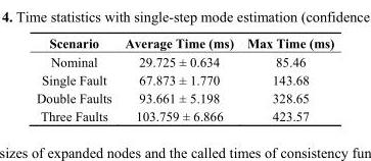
<table><thead><tr><td>Scenario</td><td>Average Time (ms)</td><td>Max Time (ms)</td></tr></thead><tbody><tr><td>Nominal</td><td>29.725 ± 0.634</td><td>85.46</td></tr><tr><td>Single Fault</td><td>67.873 ± 1.770</td><td>143.68</td></tr><tr><td>Double Faults</td><td>93.661 ± 5.198</td><td>328.65</td></tr><tr><td>Three Faults</td><td>103.759 ± 6.866</td><td>423.57</td></tr></tbody></table>